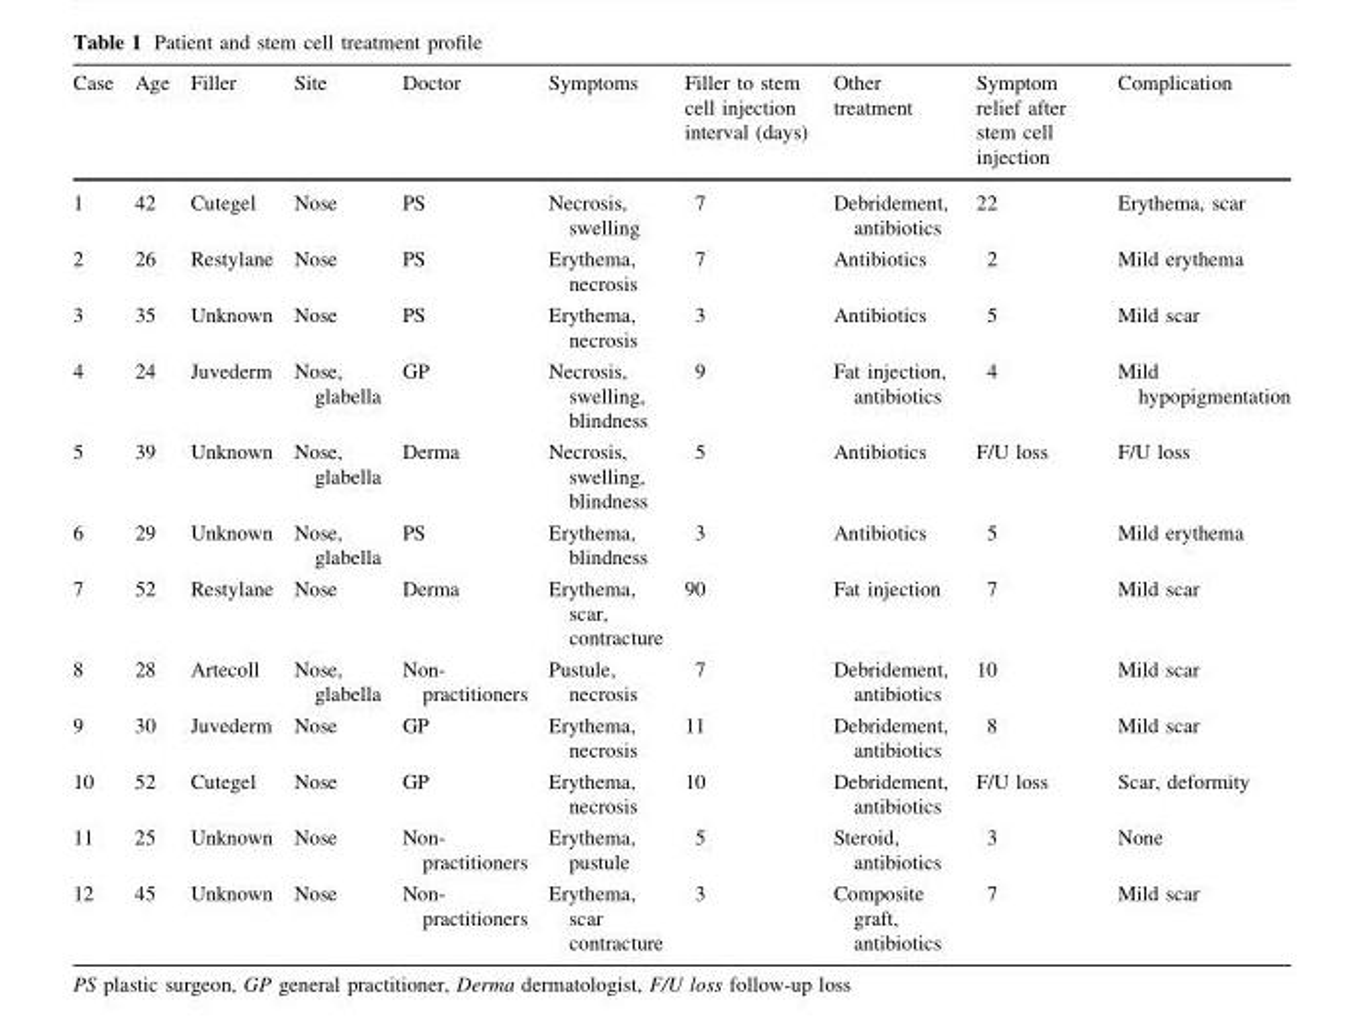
<table><thead><tr><td>Case</td><td>Age</td><td>Filler</td><td>Site</td><td>Doctor</td><td>Symptoms</td><td>Filler to stem cell injection interval (days)</td><td>Other treatment</td><td>Symptom relief after stem cell injection</td><td>Complication</td></tr></thead><tbody><tr><td>1</td><td>42</td><td>Cutegel</td><td>Nose</td><td>PS</td><td>Necrosis, swelling</td><td>7</td><td>Debridement, antibiotics</td><td>22</td><td>Erythema, scar</td></tr><tr><td>2</td><td>26</td><td>Restylane</td><td>Nose</td><td>PS</td><td>Erythema, necrosis</td><td>7</td><td>Antibiotics</td><td>2</td><td>Mild erythema</td></tr><tr><td>3</td><td>35</td><td>Unknown</td><td>Nose</td><td>PS</td><td>Erythema, necrosis</td><td>3</td><td>Antibiotics</td><td>5</td><td>Mild scar</td></tr><tr><td>4</td><td>24</td><td>Juvederm</td><td>Nose, glabella</td><td>GP</td><td>Necrosis, swelling, blindness</td><td>9</td><td>Fat injection, antibiotics</td><td>4</td><td>Mild hypopigmentation</td></tr><tr><td>5</td><td>39</td><td>Unknown</td><td>Nose, glabella</td><td>Derma</td><td>Necrosis, swelling, blindness</td><td>5</td><td>Antibiotics</td><td>F/U loss</td><td>F/U loss</td></tr><tr><td>6</td><td>29</td><td>Unknown</td><td>Nose, glabella</td><td>PS</td><td>Erythema, blindness</td><td>3</td><td>Antibiotics</td><td>5</td><td>Mild erythema</td></tr><tr><td>7</td><td>52</td><td>Restylane</td><td>Nose</td><td>Derma</td><td>Erythema, scar, contracture</td><td>90</td><td>Fat injection</td><td>7</td><td>Mild scar</td></tr><tr><td>8</td><td>28</td><td>Artecoll</td><td>Nose, glabella</td><td>Non- practitioners</td><td>Pustule, necrosis</td><td>7</td><td>Debridement, antibiotics</td><td>10</td><td>Mild scar</td></tr><tr><td>9</td><td>30</td><td>Juvederm</td><td>Nose</td><td>GP</td><td>Erythema, necrosis</td><td>11</td><td>Debridement, antibiotics</td><td>8</td><td>Mild scar</td></tr><tr><td>10</td><td>52</td><td>Cutegel</td><td>Nose</td><td>GP</td><td>Erythema, necrosis</td><td>10</td><td>Debridement, antibiotics</td><td>F/U loss</td><td>Scar, deformity</td></tr><tr><td>11</td><td>25</td><td>Unknown</td><td>Nose</td><td>Non- practitioners</td><td>Erythema, pustule</td><td>5</td><td>Steroid, antibiotics</td><td>3</td><td>None</td></tr><tr><td>12</td><td>45</td><td>Unknown</td><td>Nose</td><td>Non- practitioners</td><td>Erythema, scar contracture</td><td>3</td><td>Composite graft, antibiotics</td><td>7</td><td>Mild scar</td></tr></tbody></table>